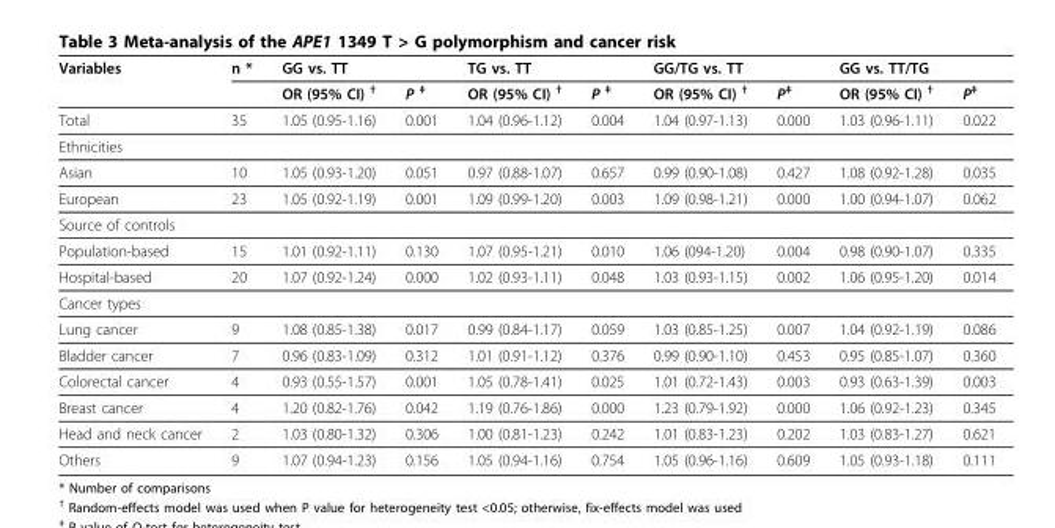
<table><thead><tr><td rowspan="2">Variables</td><td rowspan="2">n *</td><td colspan="2">GG vs. TT</td><td colspan="2">TG vs. TT</td><td colspan="2">GG/TG vs. TT</td><td colspan="2">GG vs. TT/TG</td></tr><tr><td>OR (95% CI) <sup>†</sup></td><td>P <sup>‡</sup></td><td>OR (95% CI) <sup>†</sup></td><td>P <sup>‡</sup></td><td>OR (95% CI) <sup>†</sup></td><td>P<sup>‡</sup></td><td>OR (95% CI) <sup>†</sup></td><td>P<sup>‡</sup></td></tr></thead><tbody><tr><td>Total</td><td>35</td><td>1.05 (0.95-1.16)</td><td>0.001</td><td>1.04 (0.96-1.12)</td><td>0.004</td><td>1.04 (0.97-1.13)</td><td>0.000</td><td>1.03 (0.96-1.11)</td><td>0.022</td></tr><tr><td colspan="10">Ethnicities</td></tr><tr><td>Asian</td><td>10</td><td>1.05 (0.93-1.20)</td><td>0.051</td><td>0.97 (0.88-1.07)</td><td>0.657</td><td>0.99 (0.90-1.08)</td><td>0.427</td><td>1.08 (0.92-1.28)</td><td>0.035</td></tr><tr><td>European</td><td>23</td><td>1.05 (0.92-1.19)</td><td>0.001</td><td>1.09 (0.99-1.20)</td><td>0.003</td><td>1.09 (0.98-1.21)</td><td>0.000</td><td>1.00 (0.94-1.07)</td><td>0.062</td></tr><tr><td colspan="10">Source of controls</td></tr><tr><td>Population-based</td><td>15</td><td>1.01 (0.92-1.11)</td><td>0.130</td><td>1.07 (0.95-1.21)</td><td>0.010</td><td>1.06 (094-1.20)</td><td>0.004</td><td>0.98 (0.90-1.07)</td><td>0.335</td></tr><tr><td>Hospital-based</td><td>20</td><td>1.07 (0.92-1.24)</td><td>0.000</td><td>1.02 (0.93-1.11)</td><td>0.048</td><td>1.03 (0.93-1.15)</td><td>0.002</td><td>1.06 (0.95-1.20)</td><td>0.014</td></tr><tr><td colspan="10">Cancer types</td></tr><tr><td>Lung cancer</td><td>9</td><td>1.08 (0.85-1.38)</td><td>0.017</td><td>0.99 (0.84-1.17)</td><td>0.059</td><td>1.03 (0.85-1.25)</td><td>0.007</td><td>1.04 (0.92-1.19)</td><td>0.086</td></tr><tr><td>Bladder cancer</td><td>7</td><td>0.96 (0.83-1.09)</td><td>0.312</td><td>1.01 (0.91-1.12)</td><td>0.376</td><td>0.99 (0.90-1.10)</td><td>0.453</td><td>0.95 (0.85-1.07)</td><td>0.360</td></tr><tr><td>Colorectal cancer</td><td>4</td><td>0.93 (0.55-1.57)</td><td>0.001</td><td>1.05 (0.78-1.41)</td><td>0.025</td><td>1.01 (0.72-1.43)</td><td>0.003</td><td>0.93 (0.63-1.39)</td><td>0.003</td></tr><tr><td>Breast cancer</td><td>4</td><td>1.20 (0.82-1.76)</td><td>0.042</td><td>1.19 (0.76-1.86)</td><td>0.000</td><td>1.23 (0.79-1.92)</td><td>0.000</td><td>1.06 (0.92-1.23)</td><td>0.345</td></tr><tr><td>Head and neck cancer</td><td>2</td><td>1.03 (0.80-1.32)</td><td>0.306</td><td>1.00 (0.81-1.23)</td><td>0.242</td><td>1.01 (0.83-1.23)</td><td>0.202</td><td>1.03 (0.83-1.27)</td><td>0.621</td></tr><tr><td>Others</td><td>9</td><td>1.07 (0.94-1.23)</td><td>0.156</td><td>1.05 (0.94-1.16)</td><td>0.754</td><td>1.05 (0.96-1.16)</td><td>0.609</td><td>1.05 (0.93-1.18)</td><td>0.111</td></tr></tbody></table>